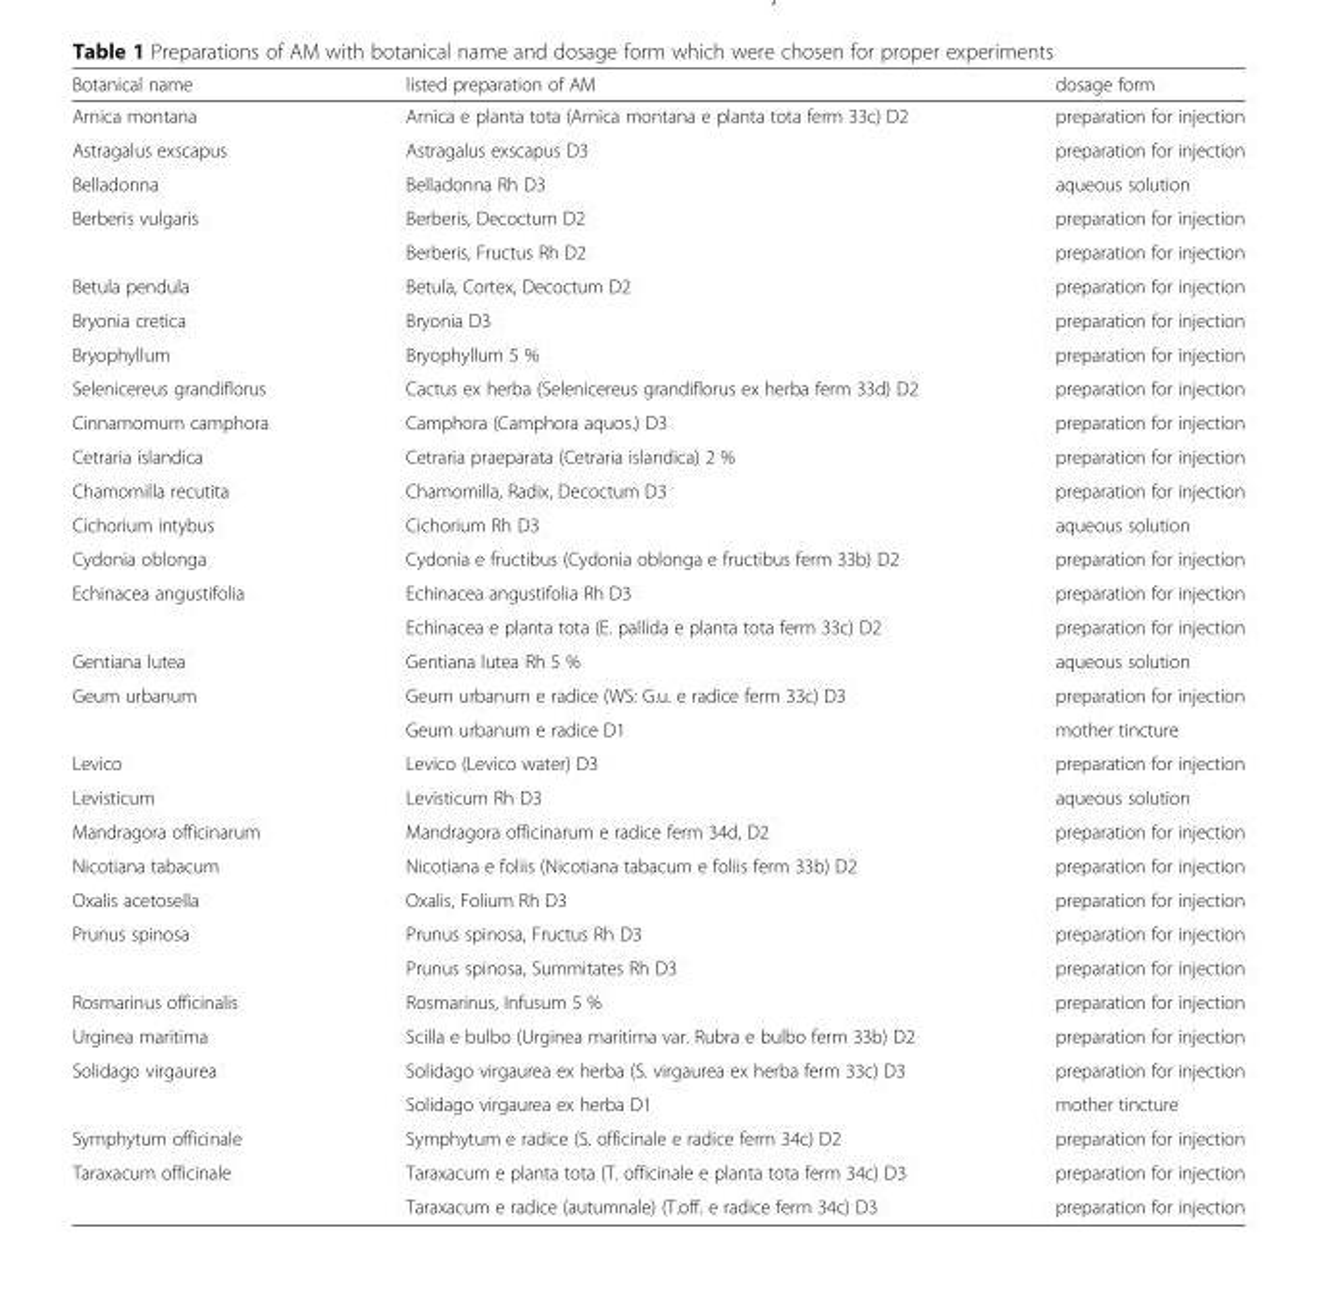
<table><thead><tr><td>Botanical name</td><td>listed preparation of AM</td><td>dosage form</td></tr></thead><tbody><tr><td>Arnica montana</td><td>Arnica e planta tota (Arnica montana e planta tota ferm 33c) D2</td><td>preparation for injection</td></tr><tr><td>Astragalus exscapus</td><td>Astragalus exscapus D3</td><td>preparation for injection</td></tr><tr><td>Belladonna</td><td>Belladonna Rh D3</td><td>aqueous solution</td></tr><tr><td rowspan="2">Berberis vulgaris</td><td>Berberis, Decoctum D2</td><td>preparation for injection</td></tr><tr><td>Berberis, Fructus Rh D2</td><td>preparation for injection</td></tr><tr><td>Betula pendula</td><td>Betula, Cortex, Decoctum D2</td><td>preparation for injection</td></tr><tr><td>Bryonia cretica</td><td>Bryonia D3</td><td>preparation for injection</td></tr><tr><td>Bryophyllum</td><td>Bryophyllum 5 %</td><td>preparation for injection</td></tr><tr><td>Selenicereus grandiflorus</td><td>Cactus ex herba (Selenicereus grandiflorus ex herba ferm 33d) D2</td><td>preparation for injection</td></tr><tr><td>Cinnamomum camphora</td><td>Camphora (Camphora aquos.) D3</td><td>preparation for injection</td></tr><tr><td>Cetraria islandica</td><td>Cetraria praeparata (Cetraria islandica) 2 %</td><td>preparation for injection</td></tr><tr><td>Chamomilla recutita</td><td>Chamomilla, Radix, Decoctum D3</td><td>preparation for injection</td></tr><tr><td>Cichorium intybus</td><td>Cichorium Rh D3</td><td>aqueous solution</td></tr><tr><td>Cydonia oblonga</td><td>Cydonia e fructibus (Cydonia oblonga e fructibus ferm 33b) D2</td><td>preparation for injection</td></tr><tr><td rowspan="2">Echinacea angustifolia</td><td>Echinacea angustifolia Rh D3</td><td>preparation for injection</td></tr><tr><td>Echinacea e planta tota (E. pallida e planta tota ferm 33c) D2</td><td>preparation for injection</td></tr><tr><td>Gentiana lutea</td><td>Gentiana lutea Rh 5 %</td><td>aqueous solution</td></tr><tr><td rowspan="2">Geum urbanum</td><td>Geum urbanum e radice (WS: G.u. e radice ferm 33c) D3</td><td>preparation for injection</td></tr><tr><td>Geum urbanum e radice D1</td><td>mother tincture</td></tr><tr><td>Levico</td><td>Levico (Levico water) D3</td><td>preparation for injection</td></tr><tr><td>Levisticum</td><td>Levisticum Rh D3</td><td>aqueous solution</td></tr><tr><td>Mandragora officinarum</td><td>Mandragora officinarum e radice ferm 34d, D2</td><td>preparation for injection</td></tr><tr><td>Nicotiana tabacum</td><td>Nicotiana e foliis (Nicotiana tabacum e foliis ferm 33b) D2</td><td>preparation for injection</td></tr><tr><td>Oxalis acetosella</td><td>Oxalis, Folium Rh D3</td><td>preparation for injection</td></tr><tr><td rowspan="2">Prunus spinosa</td><td>Prunus spinosa, Fructus Rh D3</td><td>preparation for injection</td></tr><tr><td>Prunus spinosa, Summitates Rh D3</td><td>preparation for injection</td></tr><tr><td>Rosmarinus officinalis</td><td>Rosmarinus, Infusum 5 %</td><td>preparation for injection</td></tr><tr><td>Urginea maritima</td><td>Scilla e bulbo (Urginea maritima var. Rubra e bulbo ferm 33b) D2</td><td>preparation for injection</td></tr><tr><td rowspan="2">Solidago virgaurea</td><td>Solidago virgaurea ex herba (S. virgaurea ex herba ferm 33c) D3</td><td>preparation for injection</td></tr><tr><td>Solidago virgaurea ex herba D1</td><td>mother tincture</td></tr><tr><td>Symphytum officinale</td><td>Symphytum e radice (S. officinale e radice ferm 34c) D2</td><td>preparation for injection</td></tr><tr><td rowspan="2">Taraxacum officinale</td><td>Taraxacum e planta tota (T. officinale e planta tota ferm 34c) D3</td><td>preparation for injection</td></tr><tr><td>Taraxacum e radice (autumnale) (T.off. e radice ferm 34c) D3</td><td>preparation for injection</td></tr></tbody></table>